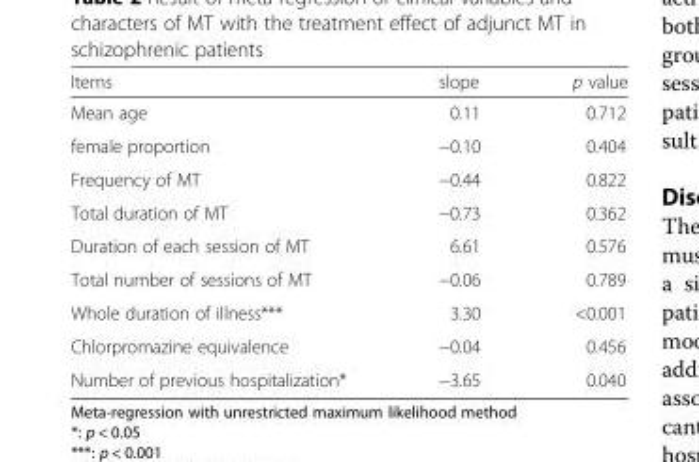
<table><thead><tr><td>Items</td><td>slope</td><td>p value</td></tr></thead><tbody><tr><td>Mean age</td><td>0.11</td><td>0.712</td></tr><tr><td>female proportion</td><td>−0.10</td><td>0.404</td></tr><tr><td>Frequency of MT</td><td>−0.44</td><td>0.822</td></tr><tr><td>Total duration of MT</td><td>−0.73</td><td>0.362</td></tr><tr><td>Duration of each session of MT</td><td>6.61</td><td>0.576</td></tr><tr><td>Total number of sessions of MT</td><td>−0.06</td><td>0.789</td></tr><tr><td>Whole duration of illness***</td><td>3.30</td><td>&lt;0.001</td></tr><tr><td>Chlorpromazine equivalence</td><td>−0.04</td><td>0.456</td></tr><tr><td>Number of previous hospitalization*</td><td>−3.65</td><td>0.040</td></tr></tbody></table>